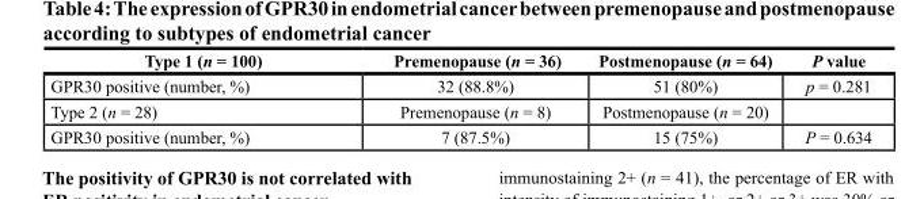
<table><thead><tr><td>Type 1 (n = 100)</td><td>Premenopause (n = 36)</td><td>Postmenopause (n = 64)</td><td>P value</td></tr></thead><tbody><tr><td>GPR30 positive (number, %)</td><td>32 (88.8%)</td><td>51 (80%)</td><td>p = 0.281</td></tr><tr><td>Type 2 (n = 28)</td><td>Premenopause (n = 8)</td><td>Postmenopause (n = 20)</td><td></td></tr><tr><td>GPR30 positive (number, %)</td><td>7 (87.5%)</td><td>15 (75%)</td><td>P = 0.634</td></tr></tbody></table>